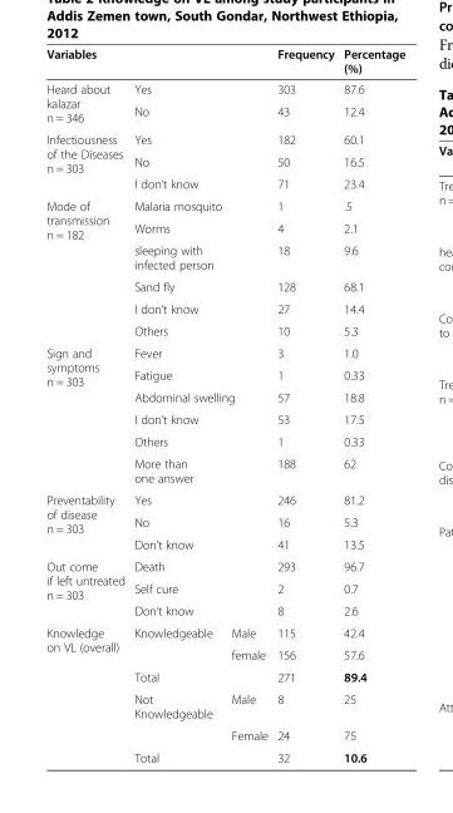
<table><thead><tr><td colspan="3">Variables</td><td>Frequency</td><td>Percentage (%)</td></tr></thead><tbody><tr><td rowspan="2">Heard about kalazar n = 346</td><td colspan="2">Yes</td><td>303</td><td>87.6</td></tr><tr><td colspan="2">No</td><td>43</td><td>12.4</td></tr><tr><td rowspan="3">Infectiousness of the Diseases n = 303</td><td colspan="2">Yes</td><td>182</td><td>60.1</td></tr><tr><td colspan="2">No</td><td>50</td><td>16.5</td></tr><tr><td colspan="2">I don’t know</td><td>71</td><td>23.4</td></tr><tr><td rowspan="6">Mode of transmission n = 182</td><td colspan="2">Malaria mosquito</td><td>1</td><td>.5</td></tr><tr><td colspan="2">Worms</td><td>4</td><td>2.1</td></tr><tr><td colspan="2">sleeping with infected person</td><td>18</td><td>9.6</td></tr><tr><td colspan="2">Sand fly</td><td>128</td><td>68.1</td></tr><tr><td colspan="2">I don’t know</td><td>27</td><td>14.4</td></tr><tr><td colspan="2">Others</td><td>10</td><td>5.3</td></tr><tr><td rowspan="6">Sign and symptoms n = 303</td><td colspan="2">Fever</td><td>3</td><td>1.0</td></tr><tr><td colspan="2">Fatigue</td><td>1</td><td>0.33</td></tr><tr><td colspan="2">Abdominal swelling</td><td>57</td><td>18.8</td></tr><tr><td colspan="2">I don’t know</td><td>53</td><td>17.5</td></tr><tr><td colspan="2">Others</td><td>1</td><td>0.33</td></tr><tr><td colspan="2">More than one answer</td><td>188</td><td>62</td></tr><tr><td rowspan="3">Preventability of disease n = 303</td><td colspan="2">Yes</td><td>246</td><td>81.2</td></tr><tr><td colspan="2">No</td><td>16</td><td>5.3</td></tr><tr><td colspan="2">Don’t know</td><td>41</td><td>13.5</td></tr><tr><td rowspan="3">Out come if left untreated n = 303</td><td colspan="2">Death</td><td>293</td><td>96.7</td></tr><tr><td colspan="2">Self cure</td><td>2</td><td>0.7</td></tr><tr><td colspan="2">Don’t know</td><td>8</td><td>2.6</td></tr><tr><td rowspan="6">Knowledge on VL (overall)</td><td>Knowledgeable</td><td>Male</td><td>115</td><td>42.4</td></tr><tr><td></td><td>female</td><td>156</td><td>57.6</td></tr><tr><td colspan="2">Total</td><td>271</td><td>89.4</td></tr><tr><td>Not Knowledgeable</td><td>Male</td><td>8</td><td>25</td></tr><tr><td></td><td>Female</td><td>24</td><td>75</td></tr><tr><td colspan="2">Total</td><td>32</td><td>10.6</td></tr></tbody></table>